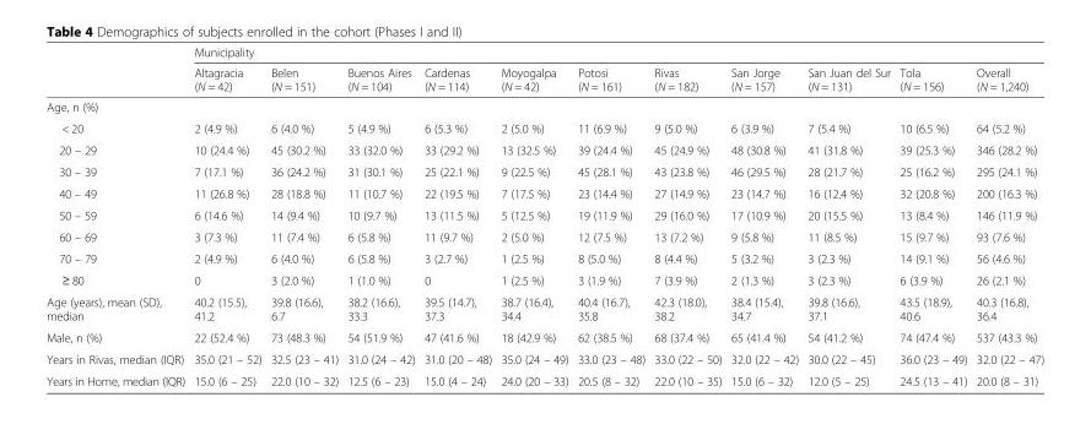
<table><thead><tr><td rowspan="2"></td><td colspan="11">Municipality</td></tr><tr><td>Altagracia (N = 42)</td><td>Belen (N = 151)</td><td>Buenos Aires (N = 104)</td><td>Cardenas (N = 114)</td><td>Moyogalpa (N = 42)</td><td>Potosi (N = 161)</td><td>Rivas (N = 182)</td><td>San Jorge (N = 157)</td><td>San Juan del Sur (N = 131)</td><td>Tola (N = 156)</td><td>Overall (N = 1,240)</td></tr></thead><tbody><tr><td colspan="12">Age, n (%)</td></tr><tr><td>&lt; 20</td><td>2 (4.9 %)</td><td>6 (4.0 %)</td><td>5 (4.9 %)</td><td>6 (5.3 %)</td><td>2 (5.0 %)</td><td>11 (6.9 %)</td><td>9 (5.0 %)</td><td>6 (3.9 %)</td><td>7 (5.4 %)</td><td>10 (6.5 %)</td><td>64 (5.2 %)</td></tr><tr><td>20 – 29</td><td>10 (24.4 %)</td><td>45 (30.2 %)</td><td>33 (32.0 %)</td><td>33 (29.2 %)</td><td>13 (32.5 %)</td><td>39 (24.4 %)</td><td>45 (24.9 %)</td><td>48 (30.8 %)</td><td>41 (31.8 %)</td><td>39 (25.3 %)</td><td>346 (28.2 %)</td></tr><tr><td>30 – 39</td><td>7 (17.1 %)</td><td>36 (24.2 %)</td><td>31 (30.1 %)</td><td>25 (22.1 %)</td><td>9 (22.5 %)</td><td>45 (28.1 %)</td><td>43 (23.8 %)</td><td>46 (29.5 %)</td><td>28 (21.7 %)</td><td>25 (16.2 %)</td><td>295 (24.1 %)</td></tr><tr><td>40 – 49</td><td>11 (26.8 %)</td><td>28 (18.8 %)</td><td>11 (10.7 %)</td><td>22 (19.5 %)</td><td>7 (17.5 %)</td><td>23 (14.4 %)</td><td>27 (14.9 %)</td><td>23 (14.7 %)</td><td>16 (12.4 %)</td><td>32 (20.8 %)</td><td>200 (16.3 %)</td></tr><tr><td>50 – 59</td><td>6 (14.6 %)</td><td>14 (9.4 %)</td><td>10 (9.7 %)</td><td>13 (11.5 %)</td><td>5 (12.5 %)</td><td>19 (11.9 %)</td><td>29 (16.0 %)</td><td>17 (10.9 %)</td><td>20 (15.5 %)</td><td>13 (8.4 %)</td><td>146 (11.9 %)</td></tr><tr><td>60 – 69</td><td>3 (7.3 %)</td><td>11 (7.4 %)</td><td>6 (5.8 %)</td><td>11 (9.7 %)</td><td>2 (5.0 %)</td><td>12 (7.5 %)</td><td>13 (7.2 %)</td><td>9 (5.8 %)</td><td>11 (8.5 %)</td><td>15 (9.7 %)</td><td>93 (7.6 %)</td></tr><tr><td>70 – 79</td><td>2 (4.9 %)</td><td>6 (4.0 %)</td><td>6 (5.8 %)</td><td>3 (2.7 %)</td><td>1 (2.5 %)</td><td>8 (5.0 %)</td><td>8 (4.4 %)</td><td>5 (3.2 %)</td><td>3 (2.3 %)</td><td>14 (9.1 %)</td><td>56 (4.6 %)</td></tr><tr><td>≥ 80</td><td>0</td><td>3 (2.0 %)</td><td>1 (1.0 %)</td><td>0</td><td>1 (2.5 %)</td><td>3 (1.9 %)</td><td>7 (3.9 %)</td><td>2 (1.3 %)</td><td>3 (2.3 %)</td><td>6 (3.9 %)</td><td>26 (2.1 %)</td></tr><tr><td>Age (years), mean (SD), median</td><td>40.2 (15.5), 41.2</td><td>39.8 (16.6), 6.7</td><td>38.2 (16.6), 33.3</td><td>39.5 (14.7), 37.3</td><td>38.7 (16.4), 34.4</td><td>40.4 (16.7), 35.8</td><td>42.3 (18.0), 38.2</td><td>38.4 (15.4), 34.7</td><td>39.8 (16.6), 37.1</td><td>43.5 (18.9), 40.6</td><td>40.3 (16.8), 36.4</td></tr><tr><td>Male, n (%)</td><td>22 (52.4 %)</td><td>73 (48.3 %)</td><td>54 (51.9 %)</td><td>47 (41.6 %)</td><td>18 (42.9 %)</td><td>62 (38.5 %)</td><td>68 (37.4 %)</td><td>65 (41.4 %)</td><td>54 (41.2 %)</td><td>74 (47.4 %)</td><td>537 (43.3 %)</td></tr><tr><td>Years in Rivas, median (IQR)</td><td>35.0 (21 – 52)</td><td>32.5 (23 – 41)</td><td>31.0 (24 – 42)</td><td>31.0 (20 – 48)</td><td>35.0 (24 – 49)</td><td>33.0 (23 – 48)</td><td>33.0 (22 – 50)</td><td>32.0 (22 – 42)</td><td>30.0 (22 – 45)</td><td>36.0 (23 – 49)</td><td>32.0 (22 – 47)</td></tr><tr><td>Years in Home, median (IQR)</td><td>15.0 (6 – 25)</td><td>22.0 (10 – 32)</td><td>12.5 (6 – 23)</td><td>15.0 (4 – 24)</td><td>24.0 (20 – 33)</td><td>20.5 (8 – 32)</td><td>22.0 (10 – 35)</td><td>15.0 (6 – 32)</td><td>12.0 (5 – 25)</td><td>24.5 (13 – 41)</td><td>20.0 (8 – 31)</td></tr></tbody></table>